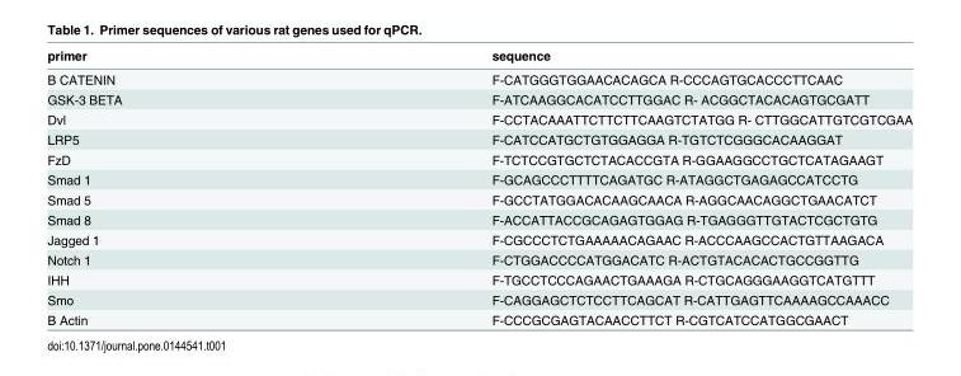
<table><thead><tr><td>primer</td><td>sequence</td></tr></thead><tbody><tr><td>B CATENIN</td><td>F-CATGGGTGGAACACAGCA R-CCCAGTGCACCCTTCAAC</td></tr><tr><td>GSK-3 BETA</td><td>F-ATCAAGGCACATCCTTGGAC R- ACGGCTACACAGTGCGATT</td></tr><tr><td>Dvl</td><td>F-CCTACAAATTCTTCTTCAAGTCTATGG R- CTTGGCATTGTCGTCGAA</td></tr><tr><td>LRP5</td><td>F-CATCCATGCTGTGGAGGA R-TGTCTCGGGCACAAGGAT</td></tr><tr><td>FzD</td><td>F-TCTCCGTGCTCTACACCGTA R-GGAAGGCCTGCTCATAGAAGT</td></tr><tr><td>Smad 1</td><td>F-GCAGCCCTTTTCAGATGC R-ATAGGCTGAGAGCCATCCTG</td></tr><tr><td>Smad 5</td><td>F-GCCTATGGACACAAGCAACA R-AGGCAACAGGCTGAACATCT</td></tr><tr><td>Smad 8</td><td>F-ACCATTACCGCAGAGTGGAG R-TGAGGGTTGTACTCGCTGTG</td></tr><tr><td>Jagged 1</td><td>F-CGCCCTCTGAAAAACAGAAC R-ACCCAAGCCACTGTTAAGACA</td></tr><tr><td>Notch 1</td><td>F-CTGGACCCCATGGACATC R-ACTGTACACACTGCCGGTTG</td></tr><tr><td>IHH</td><td>F-TGCCTCCCAGAACTGAAAGA R-CTGCAGGGAAGGTCATGTTT</td></tr><tr><td>Smo</td><td>F-CAGGAGCTCTCCTTCAGCAT R-CATTGAGTTCAAAAGCCAAACC</td></tr><tr><td>B Actin</td><td>F-CCCGCGAGTACAACCTTCT R-CGTCATCCATGGCGAACT</td></tr></tbody></table>